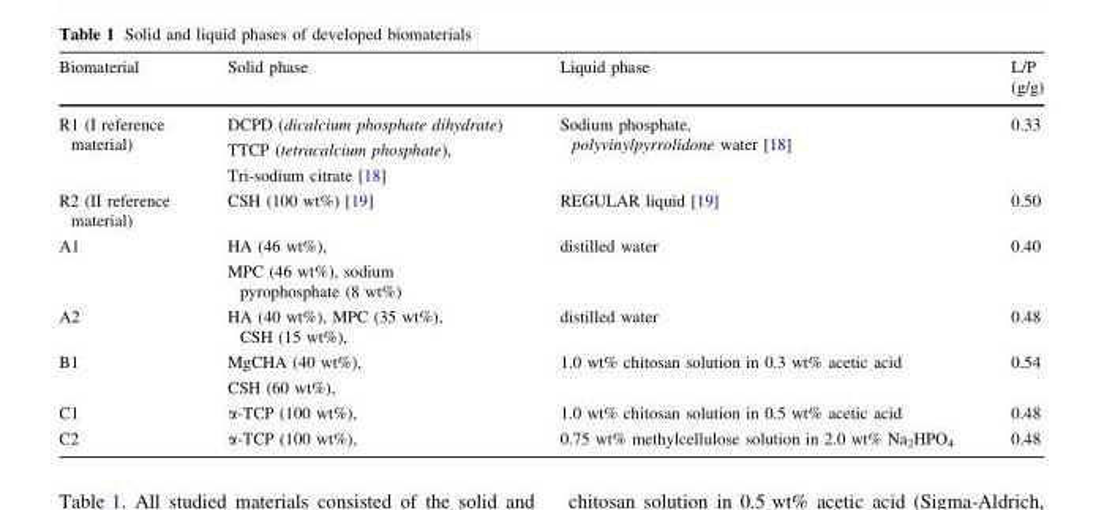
<table><thead><tr><td>Biomaterial</td><td>Solid phase</td><td>Liquid phase</td><td>L/P (g/g)</td></tr></thead><tbody><tr><td>R1 (I reference material)</td><td>DCPD (dicalcium phosphate dihydrate) TTCP (tetracalcium phosphate), Tri-sodium citrate [18]</td><td>Sodium phosphate, polyvinylpyrrolidone water [18]</td><td>0.33</td></tr><tr><td>R2 (II reference material)</td><td>CSH (100 wt%) [19]</td><td>REGULAR liquid [19]</td><td>0.50</td></tr><tr><td>A1</td><td>HA (46 wt%), MPC (46 wt%), sodium pyrophosphate (8 wt%)</td><td>distilled water</td><td>0.40</td></tr><tr><td>A2</td><td>HA (40 wt%), MPC (35 wt%), CSH (15 wt%),</td><td>distilled water</td><td>0.48</td></tr><tr><td>B1</td><td>MgCHA (40 wt%), CSH (60 wt%),</td><td>1.0 wt% chitosan solution in 0.3 wt% acetic acid</td><td>0.54</td></tr><tr><td>C1</td><td>α-TCP (100 wt%),</td><td>1.0 wt% chitosan solution in 0.5 wt% acetic acid</td><td>0.48</td></tr><tr><td>C2</td><td>α-TCP (100 wt%),</td><td>0.75 wt% methylcellulose solution in 2.0 wt% Na<sub>2</sub>HPO<sub>4</sub></td><td>0.48</td></tr></tbody></table>